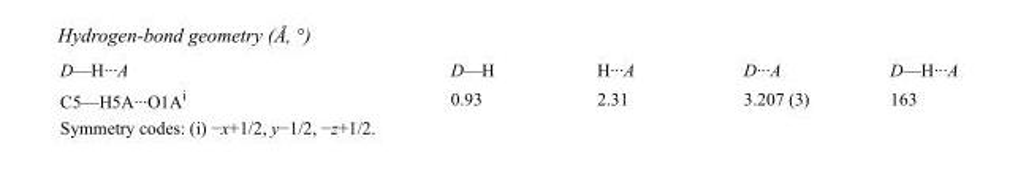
<table><tbody><tr><td>D—H···A</td><td>D—H</td><td>H···A</td><td>D···A</td><td>D—H···A</td></tr><tr><td>C5—H5A···O1A<sup>i</sup></td><td>0.93</td><td>2.31</td><td>3.207 (3)</td><td>163</td></tr></tbody></table>